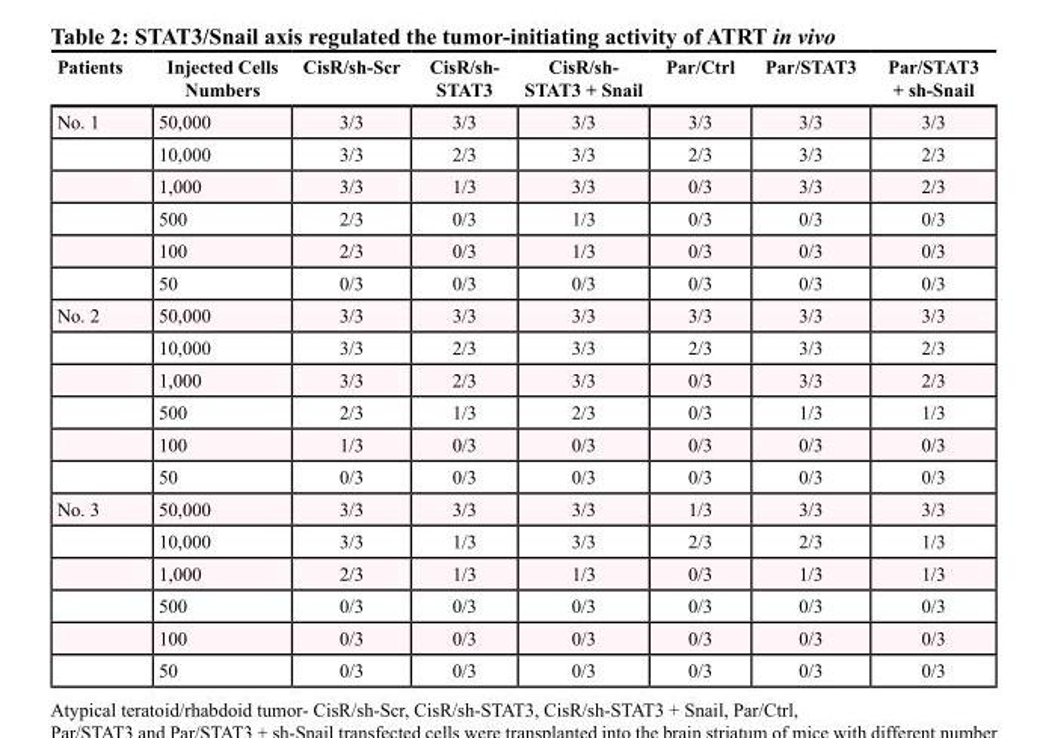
<table><thead><tr><td>Patients</td><td>Injected Cells Numbers</td><td>CisR/sh-Scr</td><td>CisR/sh- STAT3</td><td>CisR/sh- STAT3 + Snail</td><td>Par/Ctrl</td><td>Par/STAT3</td><td>Par/STAT3 + sh-Snail</td></tr></thead><tbody><tr><td rowspan="6">No. 1</td><td>50,000</td><td>3/3</td><td>3/3</td><td>3/3</td><td>3/3</td><td>3/3</td><td>3/3</td></tr><tr><td>10,000</td><td>3/3</td><td>2/3</td><td>3/3</td><td>2/3</td><td>3/3</td><td>2/3</td></tr><tr><td>1,000</td><td>3/3</td><td>1/3</td><td>3/3</td><td>0/3</td><td>3/3</td><td>2/3</td></tr><tr><td>500</td><td>2/3</td><td>0/3</td><td>1/3</td><td>0/3</td><td>0/3</td><td>0/3</td></tr><tr><td>100</td><td>2/3</td><td>0/3</td><td>1/3</td><td>0/3</td><td>0/3</td><td>0/3</td></tr><tr><td>50</td><td>0/3</td><td>0/3</td><td>0/3</td><td>0/3</td><td>0/3</td><td>0/3</td></tr><tr><td rowspan="6">No. 2</td><td>50,000</td><td>3/3</td><td>3/3</td><td>3/3</td><td>3/3</td><td>3/3</td><td>3/3</td></tr><tr><td>10,000</td><td>3/3</td><td>2/3</td><td>3/3</td><td>2/3</td><td>3/3</td><td>2/3</td></tr><tr><td>1,000</td><td>3/3</td><td>2/3</td><td>3/3</td><td>0/3</td><td>3/3</td><td>2/3</td></tr><tr><td>500</td><td>2/3</td><td>1/3</td><td>2/3</td><td>0/3</td><td>1/3</td><td>1/3</td></tr><tr><td>100</td><td>1/3</td><td>0/3</td><td>0/3</td><td>0/3</td><td>0/3</td><td>0/3</td></tr><tr><td>50</td><td>0/3</td><td>0/3</td><td>0/3</td><td>0/3</td><td>0/3</td><td>0/3</td></tr><tr><td rowspan="6">No. 3</td><td>50,000</td><td>3/3</td><td>3/3</td><td>3/3</td><td>1/3</td><td>3/3</td><td>3/3</td></tr><tr><td>10,000</td><td>3/3</td><td>1/3</td><td>3/3</td><td>2/3</td><td>2/3</td><td>1/3</td></tr><tr><td>1,000</td><td>2/3</td><td>1/3</td><td>1/3</td><td>0/3</td><td>1/3</td><td>1/3</td></tr><tr><td>500</td><td>0/3</td><td>0/3</td><td>0/3</td><td>0/3</td><td>0/3</td><td>0/3</td></tr><tr><td>100</td><td>0/3</td><td>0/3</td><td>0/3</td><td>0/3</td><td>0/3</td><td>0/3</td></tr><tr><td>50</td><td>0/3</td><td>0/3</td><td>0/3</td><td>0/3</td><td>0/3</td><td>0/3</td></tr></tbody></table>